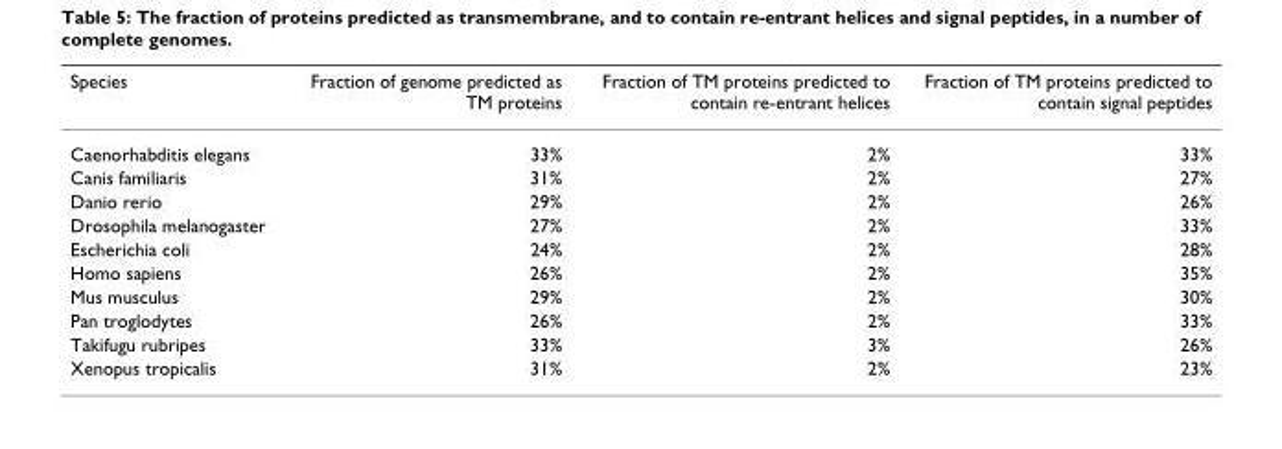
<table><thead><tr><td>Species</td><td>Fraction of genome predicted as TM proteins</td><td>Fraction of TM proteins predicted to contain re-entrant helices</td><td>Fraction of TM proteins predicted to contain signal peptides</td></tr></thead><tbody><tr><td>Caenorhabditis elegans</td><td>33%</td><td>2%</td><td>33%</td></tr><tr><td>Canis familiaris</td><td>31%</td><td>2%</td><td>27%</td></tr><tr><td>Danio rerio</td><td>29%</td><td>2%</td><td>26%</td></tr><tr><td>Drosophila melanogaster</td><td>27%</td><td>2%</td><td>33%</td></tr><tr><td>Escherichia coli</td><td>24%</td><td>2%</td><td>28%</td></tr><tr><td>Homo sapiens</td><td>26%</td><td>2%</td><td>35%</td></tr><tr><td>Mus musculus</td><td>29%</td><td>2%</td><td>30%</td></tr><tr><td>Pan troglodytes</td><td>26%</td><td>2%</td><td>33%</td></tr><tr><td>Takifugu rubripes</td><td>33%</td><td>3%</td><td>26%</td></tr><tr><td>Xenopus tropicalis</td><td>31%</td><td>2%</td><td>23%</td></tr></tbody></table>